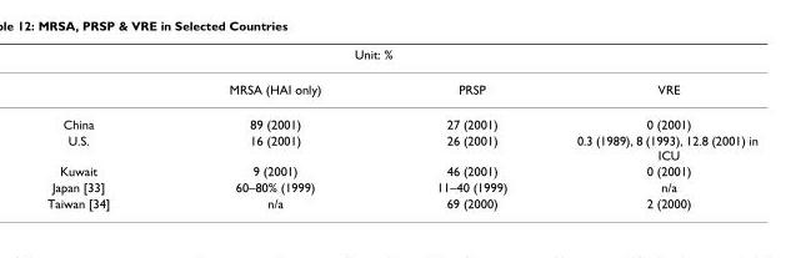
<table><thead><tr><td colspan="4">Unit: %</td></tr><tr><td></td><td>MRSA (HAI only)</td><td>PRSP</td><td>VRE</td></tr></thead><tbody><tr><td>China</td><td>89 (2001)</td><td>27 (2001)</td><td>0 (2001)</td></tr><tr><td>U.S.</td><td>16 (2001)</td><td>26 (2001)</td><td>0.3 (1989), 8 (1993), 12.8 (2001) in ICU</td></tr><tr><td>Kuwait</td><td>9 (2001)</td><td>46 (2001)</td><td>0 (2001)</td></tr><tr><td>Japan [33]</td><td>60–80% (1999)</td><td>11–40 (1999)</td><td>n/a</td></tr><tr><td>Taiwan [34]</td><td>n/a</td><td>69 (2000)</td><td>2 (2000)</td></tr></tbody></table>